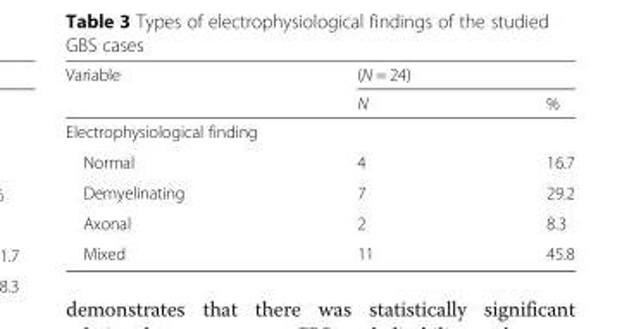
<table><thead><tr><td rowspan="2">Variable</td><td colspan="2">(N = 24)</td></tr><tr><td>N</td><td>%</td></tr></thead><tbody><tr><td colspan="3">Electrophysiological finding</td></tr><tr><td>Normal</td><td>4</td><td>16.7</td></tr><tr><td>Demyelinating</td><td>7</td><td>29.2</td></tr><tr><td>Axonal</td><td>2</td><td>8.3</td></tr><tr><td>Mixed</td><td>11</td><td>45.8</td></tr></tbody></table>